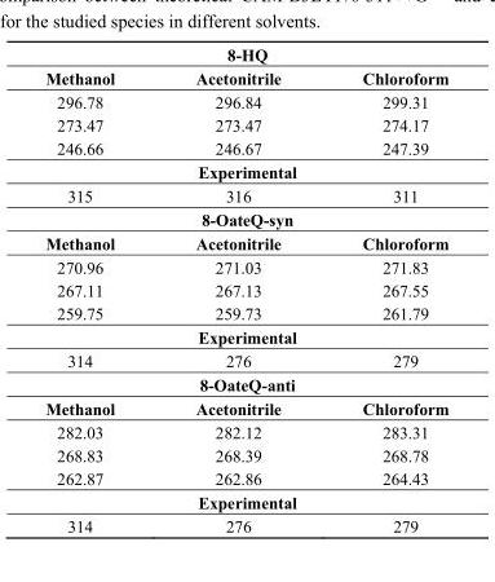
<table><thead><tr><td colspan="3">8-HQ</td></tr><tr><td>Methanol</td><td>Acetonitrile</td><td>Chloroform</td></tr></thead><tbody><tr><td>296.78</td><td>296.84</td><td>299.31</td></tr><tr><td>273.47</td><td>273.47</td><td>274.17</td></tr><tr><td>246.66</td><td>246.67</td><td>247.39</td></tr><tr><td colspan="3">Experimental</td></tr><tr><td>315</td><td>316</td><td>311</td></tr><tr><td colspan="3">8-OateQ-syn</td></tr><tr><td>Methanol</td><td>Acetonitrile</td><td>Chloroform</td></tr><tr><td>270.96</td><td>271.03</td><td>271.83</td></tr><tr><td>267.11</td><td>267.13</td><td>267.55</td></tr><tr><td>259.75</td><td>259.73</td><td>261.79</td></tr><tr><td colspan="3">Experimental</td></tr><tr><td>314</td><td>276</td><td>279</td></tr><tr><td colspan="3">8-OateQ-anti</td></tr><tr><td>Methanol</td><td>Acetonitrile</td><td>Chloroform</td></tr><tr><td>282.03</td><td>282.12</td><td>283.31</td></tr><tr><td>268.83</td><td>268.39</td><td>268.78</td></tr><tr><td>262.87</td><td>262.86</td><td>264.43</td></tr><tr><td colspan="3">Experimental</td></tr><tr><td>314</td><td>276</td><td>279</td></tr></tbody></table>